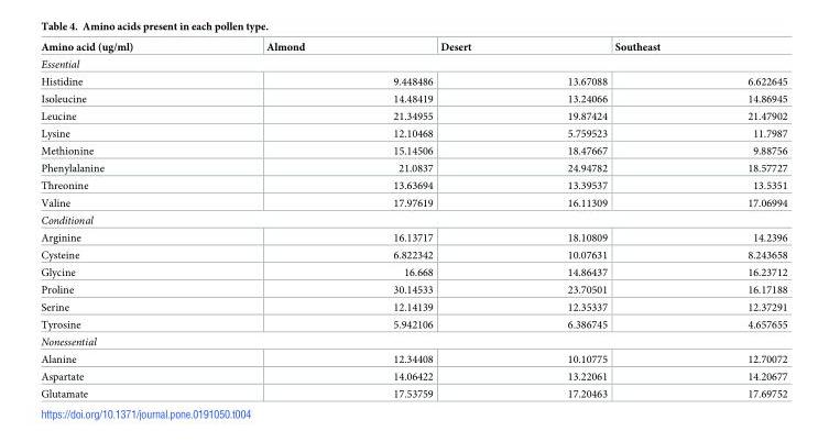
<table><thead><tr><td>Amino acid (ug/ml)</td><td>Almond</td><td>Desert</td><td>Southeast</td></tr></thead><tbody><tr><td colspan="4">Essential</td></tr><tr><td>Histidine</td><td>9.448486</td><td>13.67088</td><td>6.622645</td></tr><tr><td>Isoleucine</td><td>14.48419</td><td>13.24066</td><td>14.86945</td></tr><tr><td>Leucine</td><td>21.34955</td><td>19.87424</td><td>21.47902</td></tr><tr><td>Lysine</td><td>12.10468</td><td>5.759523</td><td>11.7987</td></tr><tr><td>Methionine</td><td>15.14506</td><td>18.47667</td><td>9.88756</td></tr><tr><td>Phenylalanine</td><td>21.0837</td><td>24.94782</td><td>18.57727</td></tr><tr><td>Threonine</td><td>13.63694</td><td>13.39537</td><td>13.5351</td></tr><tr><td>Valine</td><td>17.97619</td><td>16.11309</td><td>17.06994</td></tr><tr><td colspan="4">Conditional</td></tr><tr><td>Arginine</td><td>16.13717</td><td>18.10809</td><td>14.2396</td></tr><tr><td>Cysteine</td><td>6.822342</td><td>10.07631</td><td>8.243658</td></tr><tr><td>Glycine</td><td>16.668</td><td>14.86437</td><td>16.23712</td></tr><tr><td>Proline</td><td>30.14533</td><td>23.70501</td><td>16.17188</td></tr><tr><td>Serine</td><td>12.14139</td><td>12.35337</td><td>12.37291</td></tr><tr><td>Tyrosine</td><td>5.942106</td><td>6.386745</td><td>4.657655</td></tr><tr><td colspan="4">Nonessential</td></tr><tr><td>Alanine</td><td>12.34408</td><td>10.10775</td><td>12.70072</td></tr><tr><td>Aspartate</td><td>14.06422</td><td>13.22061</td><td>14.20677</td></tr><tr><td>Glutamate</td><td>17.53759</td><td>17.20463</td><td>17.69752</td></tr></tbody></table>